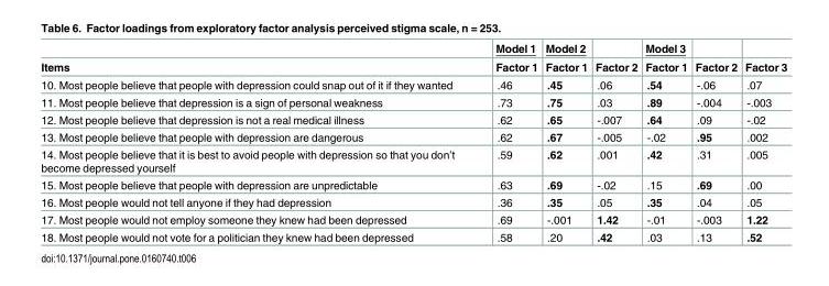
<table><thead><tr><td rowspan="2">Items</td><td rowspan="2">Model 1 Factor 1</td><td rowspan="2">Model 2 Factor 1</td><td rowspan="2">Factor 2</td><td rowspan="2">Model 3 Factor 1</td><td rowspan="2">Factor 2</td><td rowspan="2">Factor 3</td></tr><tr></tr></thead><tbody><tr><td>10. Most people believe that people with depression could snap out of it if they wanted</td><td>.46</td><td>.45</td><td>.06</td><td>.54</td><td>-.06</td><td>.07</td></tr><tr><td>11. Most people believe that depression is a sign of personal weakness</td><td>.73</td><td>.75</td><td>.03</td><td>.89</td><td>-.004</td><td>-.003</td></tr><tr><td>12. Most people believe that depression is not a real medical illness</td><td>.62</td><td>.65</td><td>-.007</td><td>.64</td><td>.09</td><td>-.02</td></tr><tr><td>13. Most people believe that people with depression are dangerous</td><td>.62</td><td>.67</td><td>-.005</td><td>-.02</td><td>.95</td><td>.002</td></tr><tr><td>14. Most people believe that it is best to avoid people with depression so that you don’t become depressed yourself</td><td>.59</td><td>.62</td><td>.001</td><td>.42</td><td>.31</td><td>.005</td></tr><tr><td>15. Most people believe that people with depression are unpredictable</td><td>.63</td><td>.69</td><td>-.02</td><td>.15</td><td>.69</td><td>.00</td></tr><tr><td>16. Most people would not tell anyone if they had depression</td><td>.36</td><td>.35</td><td>.05</td><td>.35</td><td>.04</td><td>.05</td></tr><tr><td>17. Most people would not employ someone they knew had been depressed</td><td>.69</td><td>-.001</td><td>1.42</td><td>-.01</td><td>-.003</td><td>1.22</td></tr><tr><td>18. Most people would not vote for a politician they knew had been depressed</td><td>.58</td><td>.20</td><td>.42</td><td>.03</td><td>.13</td><td>.52</td></tr></tbody></table>